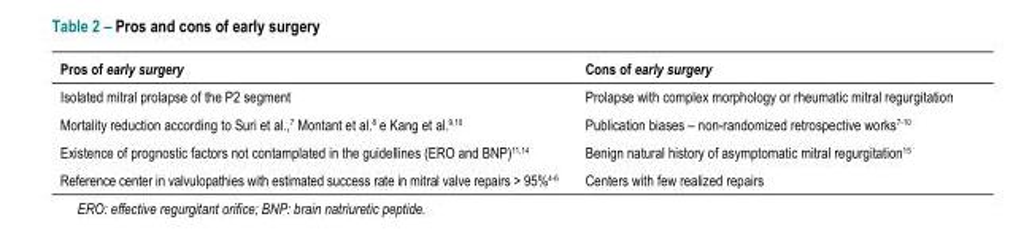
<table><thead><tr><td>Pros of early surgery</td><td>Cons of early surgery</td></tr></thead><tbody><tr><td>Isolated mitral prolapse of the P2 segment</td><td>Prolapse with complex morphology or rheumatic mitral regurgitation</td></tr><tr><td>Mortality reduction according to Suri et al.,<sup>7</sup> Montant et al.<sup>8</sup> e Kang et al.<sup>9,10</sup></td><td>Publication biases – non-randomized retrospective works<sup>7-10</sup></td></tr><tr><td>Existence of prognostic factors not contamplated in the guidellines (ERO and BNP)11,14</td><td>Benign natural history of asymptomatic mitral regurgitation<sup>15</sup></td></tr><tr><td>Reference center in valvulopathies with estimated success rate in mitral valve repairs &gt; 95%<sup>4-6</sup></td><td>Centers with few realized repairs</td></tr></tbody></table>